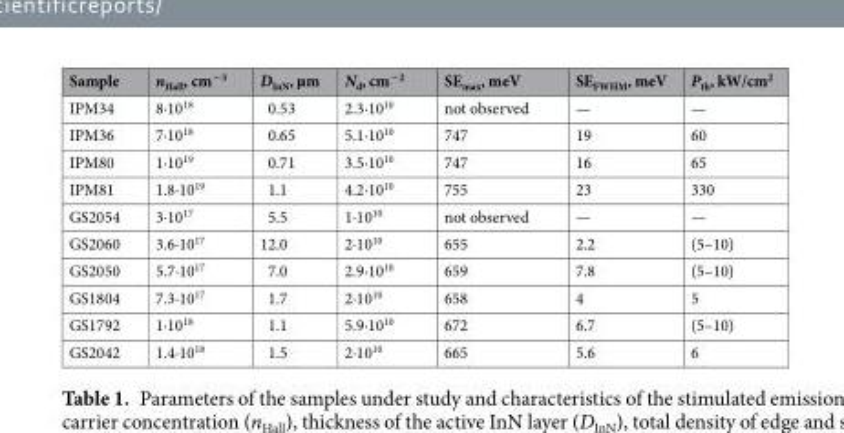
<table><thead><tr><td>Sample</td><td>n<sub>Hall</sub>, cm<sup>−3</sup></td><td>D<sub>InN</sub>, µm</td><td>N<sub>d</sub>, cm<sup>−2</sup></td><td>SE<sub>max</sub>, meV</td><td>SE<sub>FWHM</sub>, meV</td><td>P<sub>th</sub>, kW/cm<sup>2</sup></td></tr></thead><tbody><tr><td>IPM34</td><td>8·10<sup>18</sup></td><td>0.53</td><td>2.3·10<sup>10</sup></td><td>not observed</td><td>—</td><td>—</td></tr><tr><td>IPM36</td><td>7·10<sup>18</sup></td><td>0.65</td><td>5.1·10<sup>10</sup></td><td>747</td><td>19</td><td>60</td></tr><tr><td>IPM80</td><td>1·10<sup>19</sup></td><td>0.71</td><td>3.5·10<sup>10</sup></td><td>747</td><td>16</td><td>65</td></tr><tr><td>IPM81</td><td>1.8·10<sup>19</sup></td><td>1.1</td><td>4.2·10<sup>10</sup></td><td>755</td><td>23</td><td>330</td></tr><tr><td>GS2054</td><td>3·10<sup>17</sup></td><td>5.5</td><td>1·10<sup>10</sup></td><td>not observed</td><td>—</td><td>—</td></tr><tr><td>GS2060</td><td>3.6·10<sup>17</sup></td><td>12.0</td><td>2·10<sup>10</sup></td><td>655</td><td>2.2</td><td>(5–10)</td></tr><tr><td>GS2050</td><td>5.7·10<sup>17</sup></td><td>7.0</td><td>2.9·10<sup>10</sup></td><td>659</td><td>7.8</td><td>(5–10)</td></tr><tr><td>GS1804</td><td>7.3·10<sup>17</sup></td><td>1.7</td><td>2·10<sup>10</sup></td><td>658</td><td>4</td><td>5</td></tr><tr><td>GS1792</td><td>1·10<sup>18</sup></td><td>1.1</td><td>5.9·10<sup>10</sup></td><td>672</td><td>6.7</td><td>(5–10)</td></tr><tr><td>GS2042</td><td>1.4·10<sup>18</sup></td><td>1.5</td><td>2·10<sup>10</sup></td><td>665</td><td>5.6</td><td>6</td></tr></tbody></table>